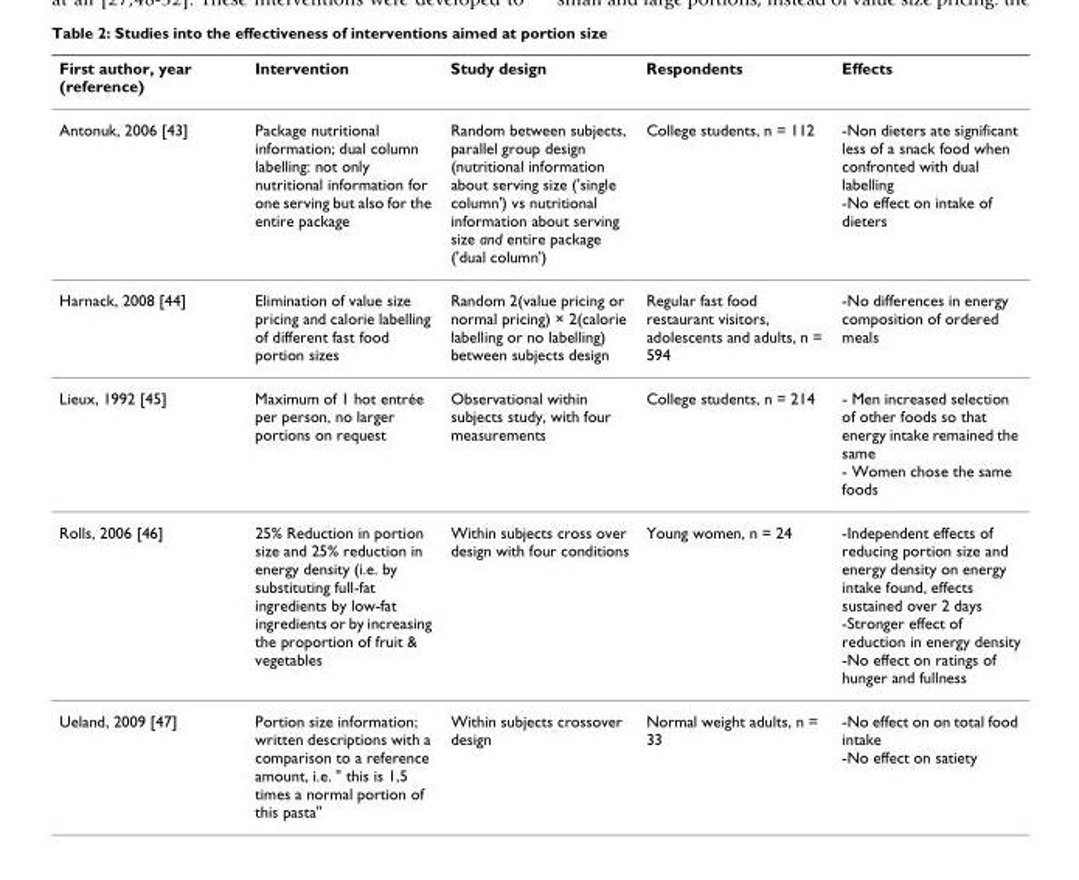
<table><thead><tr><td>First author, year (reference)</td><td>Intervention</td><td>Study design</td><td>Respondents</td><td>Effects</td></tr></thead><tbody><tr><td>Antonuk, 2006 [43]</td><td>Package nutritional information; dual column labelling: not only nutritional information for one serving but also for the entire package</td><td>Random between subjects, parallel group design (nutritional information about serving size (&#x27;single column&#x27;) vs nutritional information about serving size and entire package (&#x27;dual column&#x27;)</td><td>College students, n = 112</td><td>-Non dieters ate significant less of a snack food when confronted with dual labelling -No effect on intake of dieters</td></tr><tr><td>Harnack, 2008 [44]</td><td>Elimination of value size pricing and calorie labelling of different fast food portion sizes</td><td>Random 2(value pricing or normal pricing) × 2(calorie labelling or no labelling) between subjects design</td><td>Regular fast food restaurant visitors, adolescents and adults, n = 594</td><td>-No differences in energy composition of ordered meals</td></tr><tr><td>Lieux, 1992 [45]</td><td>Maximum of 1 hot entrée per person, no larger portions on request</td><td>Observational within subjects study, with four measurements</td><td>College students, n = 214</td><td>- Men increased selection of other foods so that energy intake remained the same - Women chose the same foods</td></tr><tr><td>Rolls, 2006 [46]</td><td>25% Reduction in portion size and 25% reduction in energy density (i.e. by substituting full-fat ingredients by low-fat ingredients or by increasing the proportion of fruit &amp; vegetables</td><td>Within subjects cross over design with four conditions</td><td>Young women, n = 24</td><td>-Independent effects of reducing portion size and energy density on energy intake found, effects sustained over 2 days -Stronger effect of reduction in energy density -No effect on ratings of hunger and fullness</td></tr><tr><td>Ueland, 2009 [47]</td><td>Portion size information; written descriptions with a comparison to a reference amount, i.e. &quot; this is 1,5 times a normal portion of this pasta&quot;</td><td>Within subjects crossover design</td><td>Normal weight adults, n = 33</td><td>-No effect on on total food intake -No effect on satiety</td></tr></tbody></table>